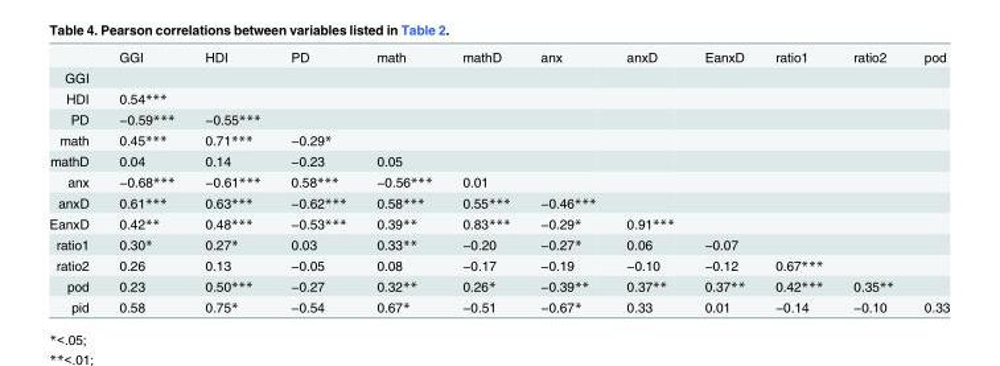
<table><thead><tr><td></td><td>GGI</td><td>HDI</td><td>PD</td><td>math</td><td>mathD</td><td>anx</td><td>anxD</td><td>EanxD</td><td>ratio1</td><td>ratio2</td><td>pod</td></tr></thead><tbody><tr><td colspan="12">GGI</td></tr><tr><td>HDI</td><td>0.54***</td><td></td><td></td><td></td><td></td><td></td><td></td><td></td><td></td><td></td><td></td></tr><tr><td>PD</td><td>−0.59***</td><td>−0.55***</td><td></td><td></td><td></td><td></td><td></td><td></td><td></td><td></td><td></td></tr><tr><td>math</td><td>0.45***</td><td>0.71***</td><td>−0.29*</td><td></td><td></td><td></td><td></td><td></td><td></td><td></td><td></td></tr><tr><td>mathD</td><td>0.04</td><td>0.14</td><td>−0.23</td><td>0.05</td><td></td><td></td><td></td><td></td><td></td><td></td><td></td></tr><tr><td>anx</td><td>−0.68***</td><td>−0.61***</td><td>0.58***</td><td>−0.56***</td><td>0.01</td><td></td><td></td><td></td><td></td><td></td><td></td></tr><tr><td>anxD</td><td>0.61***</td><td>0.63***</td><td>−0.62***</td><td>0.58***</td><td>0.55***</td><td>−0.46***</td><td></td><td></td><td></td><td></td><td></td></tr><tr><td>EanxD</td><td>0.42**</td><td>0.48***</td><td>−0.53***</td><td>0.39**</td><td>0.83***</td><td>−0.29*</td><td>0.91***</td><td></td><td></td><td></td><td></td></tr><tr><td>ratio1</td><td>0.30*</td><td>0.27*</td><td>0.03</td><td>0.33**</td><td>−0.20</td><td>−0.27*</td><td>0.06</td><td>−0.07</td><td></td><td></td><td></td></tr><tr><td>ratio2</td><td>0.26</td><td>0.13</td><td>−0.05</td><td>0.08</td><td>−0.17</td><td>−0.19</td><td>−0.10</td><td>−0.12</td><td>0.67***</td><td></td><td></td></tr><tr><td>pod</td><td>0.23</td><td>0.50***</td><td>−0.27</td><td>0.32**</td><td>0.26*</td><td>−0.39**</td><td>0.37**</td><td>0.37**</td><td>0.42***</td><td>0.35**</td><td></td></tr><tr><td>pid</td><td>0.58</td><td>0.75*</td><td>−0.54</td><td>0.67*</td><td>−0.51</td><td>−0.67*</td><td>0.33</td><td>0.01</td><td>−0.14</td><td>−0.10</td><td>0.33</td></tr></tbody></table>